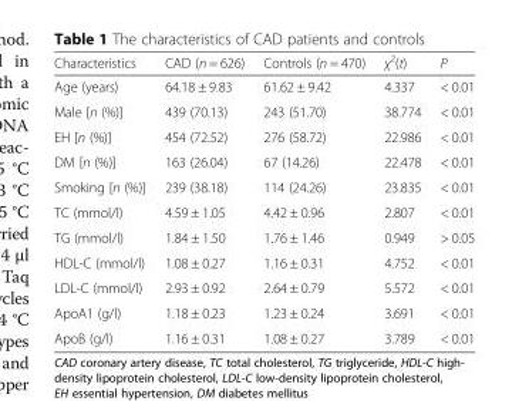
<table><thead><tr><td>Characteristics</td><td>CAD (n = 626)</td><td>Controls (n = 470)</td><td>χ<sup>2</sup>(t)</td><td>P</td></tr></thead><tbody><tr><td>Age (years)</td><td>64.18 ± 9.83</td><td>61.62 ± 9.42</td><td>4.337</td><td>&lt; 0.01</td></tr><tr><td>Male [n (%)]</td><td>439 (70.13)</td><td>243 (51.70)</td><td>38.774</td><td>&lt; 0.01</td></tr><tr><td>EH [n (%)]</td><td>454 (72.52)</td><td>276 (58.72)</td><td>22.986</td><td>&lt; 0.01</td></tr><tr><td>DM [n (%)]</td><td>163 (26.04)</td><td>67 (14.26)</td><td>22.478</td><td>&lt; 0.01</td></tr><tr><td>Smoking [n (%)]</td><td>239 (38.18)</td><td>114 (24.26)</td><td>23.835</td><td>&lt; 0.01</td></tr><tr><td>TC (mmol/l)</td><td>4.59 ± 1.05</td><td>4.42 ± 0.96</td><td>2.807</td><td>&lt; 0.01</td></tr><tr><td>TG (mmol/l)</td><td>1.84 ± 1.50</td><td>1.76 ± 1.46</td><td>0.949</td><td>&gt; 0.05</td></tr><tr><td>HDL-C (mmol/l)</td><td>1.08 ± 0.27</td><td>1.16 ± 0.31</td><td>4.752</td><td>&lt; 0.01</td></tr><tr><td>LDL-C (mmol/l)</td><td>2.93 ± 0.92</td><td>2.64 ± 0.79</td><td>5.572</td><td>&lt; 0.01</td></tr><tr><td>ApoA1 (g/l)</td><td>1.18 ± 0.23</td><td>1.23 ± 0.24</td><td>3.691</td><td>&lt; 0.01</td></tr><tr><td>ApoB (g/l)</td><td>1.16 ± 0.31</td><td>1.08 ± 0.27</td><td>3.789</td><td>&lt; 0.01</td></tr></tbody></table>